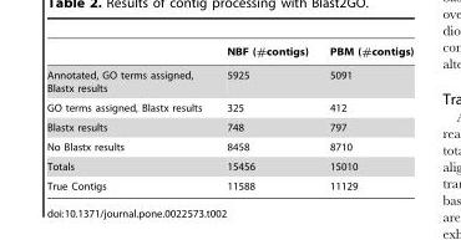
<table><thead><tr><td></td><td>NBF (#contigs)</td><td>PBM (#contigs)</td></tr></thead><tbody><tr><td>Annotated, GO terms assigned, Blastx results</td><td>5925</td><td>5091</td></tr><tr><td>GO terms assigned, Blastx results</td><td>325</td><td>412</td></tr><tr><td>Blastx results</td><td>748</td><td>797</td></tr><tr><td>No Blastx results</td><td>8458</td><td>8710</td></tr><tr><td>Totals</td><td>15456</td><td>15010</td></tr><tr><td>True Contigs</td><td>11588</td><td>11129</td></tr></tbody></table>